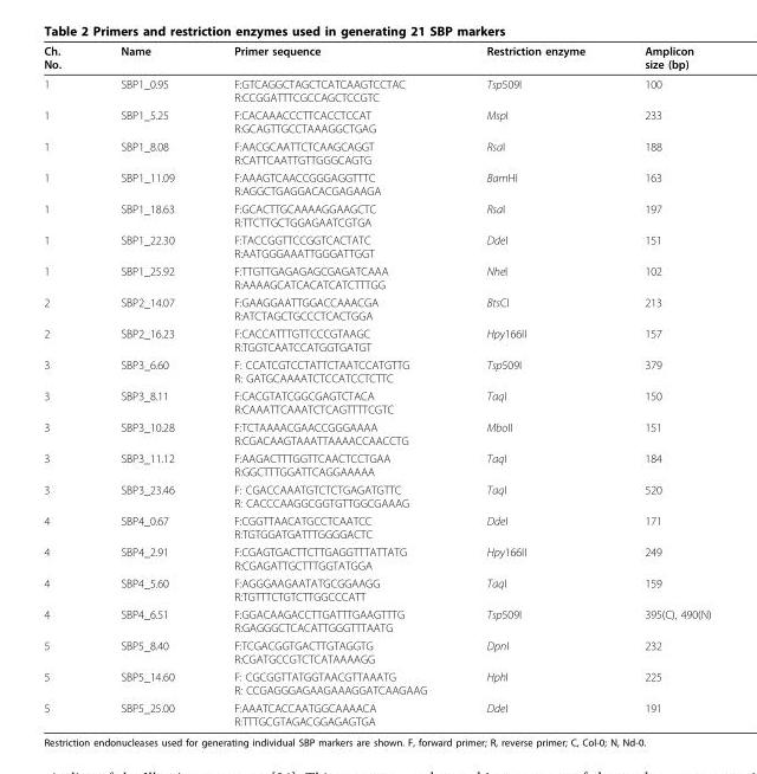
<table><thead><tr><td>Ch. No.</td><td>Name</td><td>Primer sequence</td><td>Restriction enzyme</td><td>Amplicon size (bp)</td></tr></thead><tbody><tr><td>1</td><td>SBP1_0.95</td><td>F:GTCAGGCTAGCTCATCAAGTCCTAC R:CCGGATTTCGCCAGCTCCGTC</td><td>Tsp509I</td><td>100</td></tr><tr><td>1</td><td>SBP1_5.25</td><td>F:CACAAACCCTTCACCTCCAT R:GCAGTTGCCTAAAGGCTGAG</td><td>MspI</td><td>233</td></tr><tr><td>1</td><td>SBP1_8.08</td><td>F:AACGCAATTCTCAAGCAGGT R:CATTCAATTGTTGGGCAGTG</td><td>RsaI</td><td>188</td></tr><tr><td>1</td><td>SBP1_11.09</td><td>F:AAAGTCAACCGGGAGGTTTC R:AGGCTGAGGACACGAGAAGA</td><td>BamHI</td><td>163</td></tr><tr><td>1</td><td>SBP1_18.63</td><td>F:GCACTTGCAAAAGGAAGCTC R:TTCTTGCTGGAGAATCGTGA</td><td>RsaI</td><td>197</td></tr><tr><td>1</td><td>SBP1_22.30</td><td>F:TACCGGTTCCGGTCACTATC R:AATGGGAAATTGGGATTGGT</td><td>DdeI</td><td>151</td></tr><tr><td>1</td><td>SBP1_25.92</td><td>F:TTGTTGAGAGAGCGAGATCAAA R:AAAAGCATCACATCATCTTTGG</td><td>NheI</td><td>102</td></tr><tr><td>2</td><td>SBP2_14.07</td><td>F:GAAGGAATTGGACCAAACGA R:ATCTAGCTGCCCTCACTGGA</td><td>BtsCI</td><td>213</td></tr><tr><td>2</td><td>SBP2_16.23</td><td>F:CACCATTTGTTCCCGTAAGC R:TGGTCAATCCATGGTGATGT</td><td>Hpy166II</td><td>157</td></tr><tr><td>3</td><td>SBP3_6.60</td><td>F: CCATCGTCCTATTCTAATCCATGTTG R: GATGCAAAATCTCCATCCTCTTC</td><td>Tsp509I</td><td>379</td></tr><tr><td>3</td><td>SBP3_8.11</td><td>F:CACGTATCGGCGAGTCTACA R:CAAATTCAAATCTCAGTTTTCGTC</td><td>TaqI</td><td>150</td></tr><tr><td>3</td><td>SBP3_10.28</td><td>F:TCTAAAACGAACCGGGAAAA R:CGACAAGTAAATTAAAACCAACCTG</td><td>MboII</td><td>151</td></tr><tr><td>3</td><td>SBP3_11.12</td><td>F:AAGACTTTGGTTCAACTCCTGAA R:GGCTTTGGATTCAGGAAAAA</td><td>TaqI</td><td>184</td></tr><tr><td>3</td><td>SBP3_23.46</td><td>F: CGACCAAATGTCTCTGAGATGTTC R: CACCCAAGGCGGTGTTGGCGAAAG</td><td>TaqI</td><td>520</td></tr><tr><td>4</td><td>SBP4_0.67</td><td>F:CGGTTAACATGCCTCAATCC R:TGTGGATGATTTGGGGACTC</td><td>DdeI</td><td>171</td></tr><tr><td>4</td><td>SBP4_2.91</td><td>F:CGAGTGACTTCTTGAGGTTTATTATG R:CGAGATTGCTTTGGTATGGA</td><td>Hpy166II</td><td>249</td></tr><tr><td>4</td><td>SBP4_5.60</td><td>F:AGGGAAGAATATGCGGAAGG R:TGTTTCTGTCTTGGCCCATT</td><td>TaqI</td><td>159</td></tr><tr><td>4</td><td>SBP4_6.51</td><td>F:GGACAAGACCTTGATTTGAAGTTTG R:GAGGGCTCACATTGGGTTTAATG</td><td>Tsp509I</td><td>395(C), 490(N)</td></tr><tr><td>5</td><td>SBP5_8.40</td><td>F:TCGACGGTGACTTGTAGGTG R:CGATGCCGTCTCATAAAAGG</td><td>DpnI</td><td>232</td></tr><tr><td>5</td><td>SBP5_14.60</td><td>F: CGCGGTTATGGTAACGTTAAATG R: CCGAGGGAGAAGAAAGGATCAAGAAG</td><td>HphI</td><td>225</td></tr><tr><td>5</td><td>SBP5_25.00</td><td>F:AAATCACCAATGGCAAAACA R:TTTGCGTAGACGGAGAGTGA</td><td>DdeI</td><td>191</td></tr></tbody></table>